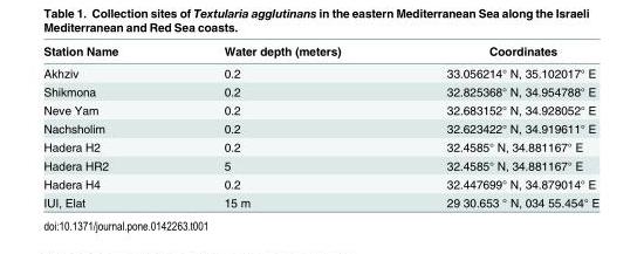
<table><thead><tr><td>Station Name</td><td>Water depth (meters)</td><td>Coordinates</td></tr></thead><tbody><tr><td>Akhziv</td><td>0.2</td><td>33.056214° N, 35.102017° E</td></tr><tr><td>Shikmona</td><td>0.2</td><td>32.825368° N, 34.954788° E</td></tr><tr><td>Neve Yam</td><td>0.2</td><td>32.683152° N, 34.928052° E</td></tr><tr><td>Nachsholim</td><td>0.2</td><td>32.623422° N, 34.919611° E</td></tr><tr><td>Hadera H2</td><td>0.2</td><td>32.4585° N, 34.881167° E</td></tr><tr><td>Hadera HR2</td><td>5</td><td>32.4585° N, 34.881167° E</td></tr><tr><td>Hadera H4</td><td>0.2</td><td>32.447699° N, 34.879014° E</td></tr><tr><td>IUI, Elat</td><td>15 m</td><td>29 30.653 ° N, 034 55.454° E</td></tr></tbody></table>